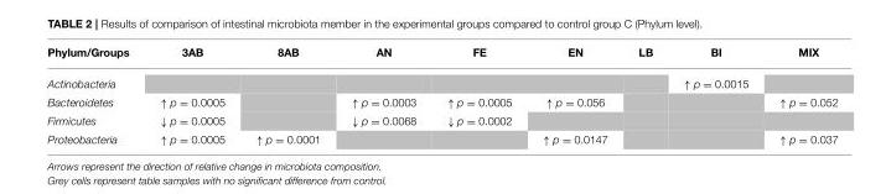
<table><thead><tr><td>Phylum/Groups</td><td>3AB</td><td>8AB</td><td>AN</td><td>FE</td><td>EN</td><td>LB</td><td>BI</td><td>MIX</td></tr></thead><tbody><tr><td>Actinobacteria</td><td></td><td></td><td></td><td></td><td></td><td></td><td>↑ p = 0.0015</td><td></td></tr><tr><td>Bacteroidetes</td><td>↑ p = 0.0005</td><td></td><td>↑ p = 0.0003</td><td>↑ p = 0.0005</td><td>↑ p = 0.056</td><td></td><td></td><td>↑ p = 0.052</td></tr><tr><td>Firmicutes</td><td>↓ p = 0.0005</td><td></td><td>↓ p = 0.0068</td><td>↓ p = 0.0002</td><td></td><td></td><td></td><td></td></tr><tr><td>Proteobacteria</td><td>↑ p = 0.0005</td><td>↑ p = 0.0001</td><td></td><td></td><td>↑ p = 0.0147</td><td></td><td></td><td>↑ p = 0.037</td></tr></tbody></table>